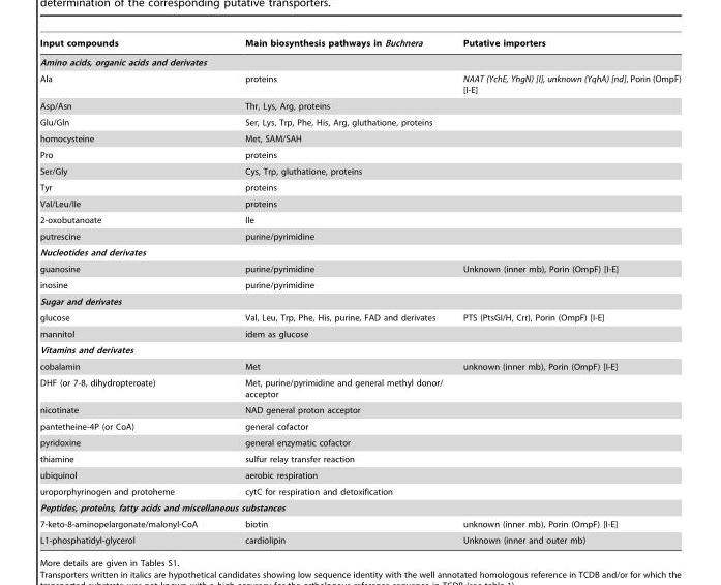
<table><thead><tr><td>Input compounds</td><td>Main biosynthesis pathways in Buchnera</td><td>Putative importers</td></tr></thead><tbody><tr><td colspan="3">Amino acids, organic acids and derivates</td></tr><tr><td>Ala</td><td>proteins</td><td>NAAT (YchE, YhgN) [I], unknown (YqhA) [nd], Porin (OmpF) [I-E]</td></tr><tr><td>Asp/Asn</td><td>Thr, Lys, Arg, proteins</td><td></td></tr><tr><td>Glu/Gln</td><td>Ser, Lys, Trp, Phe, His, Arg, gluthatione, proteins</td><td></td></tr><tr><td>homocysteine</td><td>Met, SAM/SAH</td><td></td></tr><tr><td>Pro</td><td>proteins</td><td></td></tr><tr><td>Ser/Gly</td><td>Cys, Trp, gluthatione, proteins</td><td></td></tr><tr><td>Tyr</td><td>proteins</td><td></td></tr><tr><td>Val/Leu/Ile</td><td>proteins</td><td></td></tr><tr><td>2-oxobutanoate</td><td>Ile</td><td></td></tr><tr><td>putrescine</td><td>purine/pyrimidine</td><td></td></tr><tr><td colspan="3">Nucleotides and derivates</td></tr><tr><td>guanosine</td><td>purine/pyrimidine</td><td>Unknown (inner mb), Porin (OmpF) [I-E]</td></tr><tr><td>inosine</td><td>purine/pyrimidine</td><td></td></tr><tr><td colspan="3">Sugar and derivates</td></tr><tr><td>glucose</td><td>Val, Leu, Trp, Phe, His, purine, FAD and derivates</td><td>PTS (PtsGI/H, Crr), Porin (OmpF) [I-E]</td></tr><tr><td>mannitol</td><td>idem as glucose</td><td></td></tr><tr><td colspan="3">Vitamins and derivates</td></tr><tr><td>cobalamin</td><td>Met</td><td>unknown (inner mb), Porin (OmpF) [I-E]</td></tr><tr><td>DHF (or 7-8, dihydropteroate)</td><td>Met, purine/pyrimidine and general methyl donor/ acceptor</td><td></td></tr><tr><td>nicotinate</td><td>NAD general proton acceptor</td><td></td></tr><tr><td>pantetheine-4P (or CoA)</td><td>general cofactor</td><td></td></tr><tr><td>pyridoxine</td><td>general enzymatic cofactor</td><td></td></tr><tr><td>thiamine</td><td>sulfur relay transfer reaction</td><td></td></tr><tr><td>ubiquinol</td><td>aerobic respiration</td><td></td></tr><tr><td>uroporphyrinogen and protoheme</td><td>cytC for respiration and detoxification</td><td></td></tr><tr><td colspan="3">Peptides, proteins, fatty acids and miscellaneous substances</td></tr><tr><td>7-keto-8-aminopelargonate/malonyl-CoA</td><td>biotin</td><td>unknown (inner mb), Porin (OmpF) [I-E]</td></tr><tr><td>L1-phosphatidyl-glycerol</td><td>cardiolipin</td><td>Unknown (inner and outer mb)</td></tr></tbody></table>